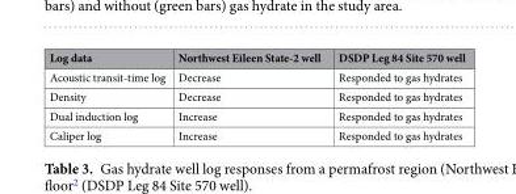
<table><thead><tr><td>Log data</td><td>Northwest Eileen State-2 well</td><td>DSDP Leg 84 Site 570 well</td></tr></thead><tbody><tr><td>Acoustic transit-time log</td><td>Decrease</td><td>Responded to gas hydrates</td></tr><tr><td>Density</td><td>Decrease</td><td>Responded to gas hydrates</td></tr><tr><td>Dual induction log</td><td>Increase</td><td>Responded to gas hydrates</td></tr><tr><td>Caliper log</td><td>Increase</td><td>Responded to gas hydrates</td></tr></tbody></table>